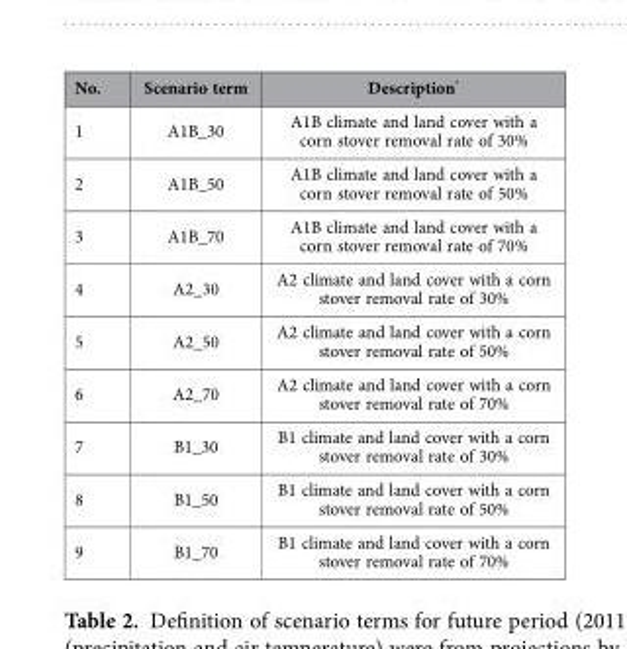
<table><thead><tr><td>No.</td><td>Scenario term</td><td>Description*</td></tr></thead><tbody><tr><td>1</td><td>A1B_30</td><td>A1B climate and land cover with a corn stover removal rate of 30%</td></tr><tr><td>2</td><td>A1B_50</td><td>A1B climate and land cover with a corn stover removal rate of 50%</td></tr><tr><td>3</td><td>A1B_70</td><td>A1B climate and land cover with a corn stover removal rate of 70%</td></tr><tr><td>4</td><td>A2_30</td><td>A2 climate and land cover with a corn stover removal rate of 30%</td></tr><tr><td>5</td><td>A2_50</td><td>A2 climate and land cover with a corn stover removal rate of 50%</td></tr><tr><td>6</td><td>A2_70</td><td>A2 climate and land cover with a corn stover removal rate of 70%</td></tr><tr><td>7</td><td>B1_30</td><td>B1 climate and land cover with a corn stover removal rate of 30%</td></tr><tr><td>8</td><td>B1_50</td><td>B1 climate and land cover with a corn stover removal rate of 50%</td></tr><tr><td>9</td><td>B1_70</td><td>B1 climate and land cover with a corn stover removal rate of 70%</td></tr></tbody></table>